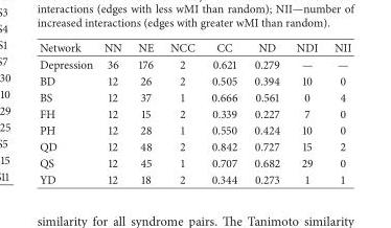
<table><thead><tr><td>Network</td><td>NN</td><td>NE</td><td>NCC</td><td>CC</td><td>ND</td><td>NDI</td><td>NII</td></tr></thead><tbody><tr><td>Depression</td><td>36</td><td>176</td><td>2</td><td>0.621</td><td>0.279</td><td>—</td><td>—</td></tr><tr><td>BD</td><td>12</td><td>26</td><td>2</td><td>0.505</td><td>0.394</td><td>10</td><td>0</td></tr><tr><td>BS</td><td>12</td><td>37</td><td>1</td><td>0.666</td><td>0.561</td><td>0</td><td>4</td></tr><tr><td>FH</td><td>12</td><td>15</td><td>2</td><td>0.339</td><td>0.227</td><td>7</td><td>0</td></tr><tr><td>PH</td><td>12</td><td>28</td><td>1</td><td>0.550</td><td>0.424</td><td>10</td><td>0</td></tr><tr><td>QD</td><td>12</td><td>48</td><td>2</td><td>0.842</td><td>0.727</td><td>15</td><td>2</td></tr><tr><td>QS</td><td>12</td><td>45</td><td>1</td><td>0.707</td><td>0.682</td><td>29</td><td>0</td></tr><tr><td>YD</td><td>12</td><td>18</td><td>2</td><td>0.344</td><td>0.273</td><td>1</td><td>1</td></tr></tbody></table>